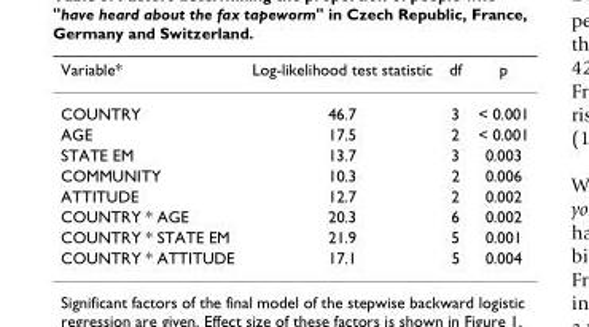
<table><thead><tr><td>Variable*</td><td>Log-likelihood test statistic</td><td>df</td><td>p</td></tr></thead><tbody><tr><td>COUNTRY</td><td>46.7</td><td>3</td><td>&lt; 0.001</td></tr><tr><td>AGE</td><td>17.5</td><td>2</td><td>&lt; 0.001</td></tr><tr><td>STATE EM</td><td>13.7</td><td>3</td><td>0.003</td></tr><tr><td>COMMUNITY</td><td>10.3</td><td>2</td><td>0.006</td></tr><tr><td>ATTITUDE</td><td>12.7</td><td>2</td><td>0.002</td></tr><tr><td>COUNTRY * AGE</td><td>20.3</td><td>6</td><td>0.002</td></tr><tr><td>COUNTRY * STATE EM</td><td>21.9</td><td>5</td><td>0.001</td></tr><tr><td>COUNTRY * ATTITUDE</td><td>17.1</td><td>5</td><td>0.004</td></tr></tbody></table>